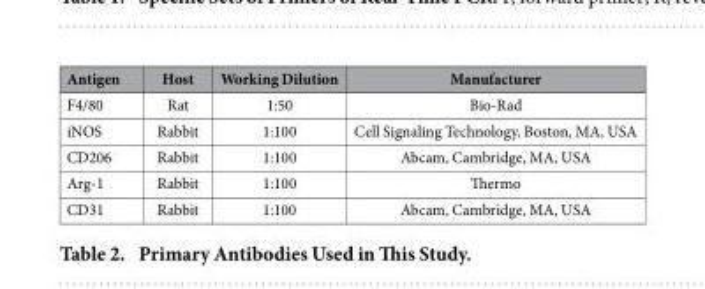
<table><thead><tr><td>Antigen</td><td>Host</td><td>Working Dilution</td><td>Manufacturer</td></tr></thead><tbody><tr><td>F4/80</td><td>Rat</td><td>1:50</td><td>Bio-Rad</td></tr><tr><td>iNOS</td><td>Rabbit</td><td>1:100</td><td>Cell Signaling Technology, Boston, MA, USA</td></tr><tr><td>CD206</td><td>Rabbit</td><td>1:100</td><td>Abcam, Cambridge, MA, USA</td></tr><tr><td>Arg-1</td><td>Rabbit</td><td>1:100</td><td>Thermo</td></tr><tr><td>CD31</td><td>Rabbit</td><td>1:100</td><td>Abcam, Cambridge, MA, USA</td></tr></tbody></table>